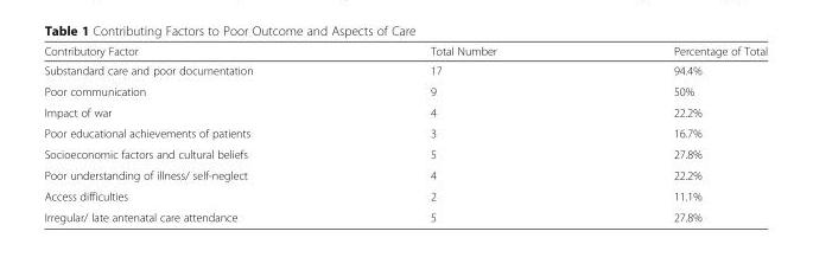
<table><thead><tr><td>Contributory Factor</td><td>Total Number</td><td>Percentage of Total</td></tr></thead><tbody><tr><td>Substandard care and poor documentation</td><td>17</td><td>94.4%</td></tr><tr><td>Poor communication</td><td>9</td><td>50%</td></tr><tr><td>Impact of war</td><td>4</td><td>22.2%</td></tr><tr><td>Poor educational achievements of patients</td><td>3</td><td>16.7%</td></tr><tr><td>Socioeconomic factors and cultural beliefs</td><td>5</td><td>27.8%</td></tr><tr><td>Poor understanding of illness/ self-neglect</td><td>4</td><td>22.2%</td></tr><tr><td>Access difficulties</td><td>2</td><td>11.1%</td></tr><tr><td>Irregular/ late antenatal care attendance</td><td>5</td><td>27.8%</td></tr></tbody></table>